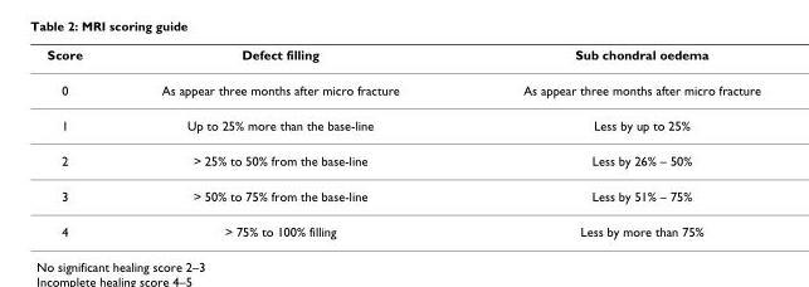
<table><thead><tr><td>Score</td><td>Defect filling</td><td>Sub chondral oedema</td></tr></thead><tbody><tr><td>0</td><td>As appear three months after micro fracture</td><td>As appear three months after micro fracture</td></tr><tr><td>1</td><td>Up to 25% more than the base-line</td><td>Less by up to 25%</td></tr><tr><td>2</td><td>&gt; 25% to 50% from the base-line</td><td>Less by 26% – 50%</td></tr><tr><td>3</td><td>&gt; 50% to 75% from the base-line</td><td>Less by 51% – 75%</td></tr><tr><td>4</td><td>&gt; 75% to 100% filling</td><td>Less by more than 75%</td></tr></tbody></table>